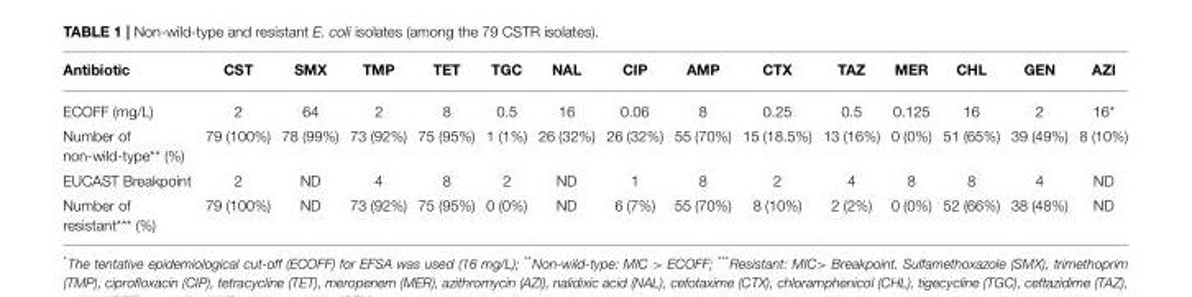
<table><thead><tr><td>Antibiotic</td><td>CST</td><td>SMX</td><td>TMP</td><td>TET</td><td>TGC</td><td>NAL</td><td>CIP</td><td>AMP</td><td>CTX</td><td>TAZ</td><td>MER</td><td>CHL</td><td>GEN</td><td>AZI</td></tr></thead><tbody><tr><td>ECOFF (mg/L)</td><td>2</td><td>64</td><td>2</td><td>8</td><td>0.5</td><td>16</td><td>0.06</td><td>8</td><td>0.25</td><td>0.5</td><td>0.125</td><td>16</td><td>2</td><td>16*</td></tr><tr><td>Number of non-wild-type** (%)</td><td>79 (100%)</td><td>78 (99%)</td><td>73 (92%)</td><td>75 (95%)</td><td>1 (1%)</td><td>26 (32%)</td><td>26 (32%)</td><td>55 (70%)</td><td>15 (18.5%)</td><td>13 (16%)</td><td>0 (0%)</td><td>51 (65%)</td><td>39 (49%)</td><td>8 (10%)</td></tr><tr><td>EUCAST Breakpoint</td><td>2</td><td>ND</td><td>4</td><td>8</td><td>2</td><td>ND</td><td>1</td><td>8</td><td>2</td><td>4</td><td>8</td><td>8</td><td>4</td><td>ND</td></tr><tr><td>Number of resistant*** (%)</td><td>79 (100%)</td><td>ND</td><td>73 (92%)</td><td>75 (95%)</td><td>0 (0%)</td><td>ND</td><td>6 (7%)</td><td>55 (70%)</td><td>8 (10%)</td><td>2 (2%)</td><td>0 (0%)</td><td>52 (66%)</td><td>38 (48%)</td><td>ND</td></tr></tbody></table>